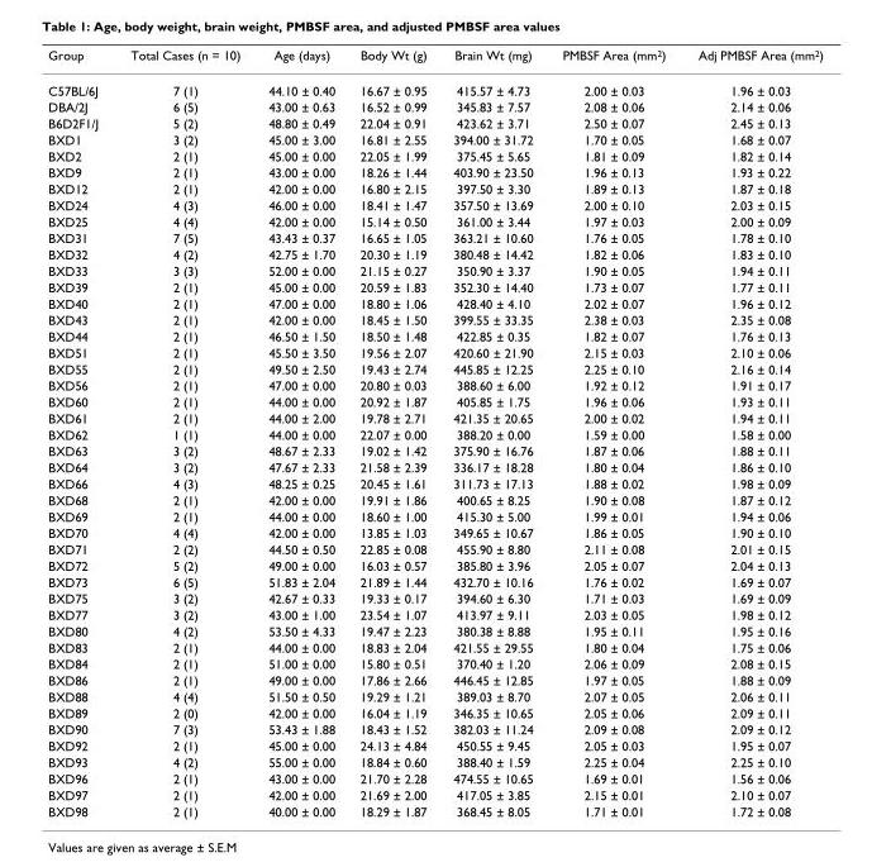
<table><thead><tr><td>Group</td><td>Total Cases (n = 10)</td><td>Age (days)</td><td>Body Wt (g)</td><td>Brain Wt (mg)</td><td>PMBSF Area (mm<sup>2</sup>)</td><td>Adj PMBSF Area (mm<sup>2</sup>)</td></tr></thead><tbody><tr><td>C57BL/6J</td><td>7 (1)</td><td>44.10 ± 0.40</td><td>16.67 ± 0.95</td><td>415.57 ± 4.73</td><td>2.00 ± 0.03</td><td>1.96 ± 0.03</td></tr><tr><td>DBA/2J</td><td>6 (5)</td><td>43.00 ± 0.63</td><td>16.52 ± 0.99</td><td>345.83 ± 7.57</td><td>2.08 ± 0.06</td><td>2.14 ± 0.06</td></tr><tr><td>B6D2F1/J</td><td>5 (2)</td><td>48.80 ± 0.49</td><td>22.04 ± 0.91</td><td>423.62 ± 3.71</td><td>2.50 ± 0.07</td><td>2.45 ± 0.13</td></tr><tr><td>BXD1</td><td>3 (2)</td><td>45.00 ± 3.00</td><td>16.81 ± 2.55</td><td>394.00 ± 31.72</td><td>1.70 ± 0.05</td><td>1.68 ± 0.07</td></tr><tr><td>BXD2</td><td>2 (1)</td><td>45.00 ± 0.00</td><td>22.05 ± 1.99</td><td>375.45 ± 5.65</td><td>1.81 ± 0.09</td><td>1.82 ± 0.14</td></tr><tr><td>BXD9</td><td>2 (1)</td><td>43.00 ± 0.00</td><td>18.26 ± 1.44</td><td>403.90 ± 23.50</td><td>1.96 ± 0.13</td><td>1.93 ± 0.22</td></tr><tr><td>BXD12</td><td>2 (1)</td><td>42.00 ± 0.00</td><td>16.80 ± 2.15</td><td>397.50 ± 3.30</td><td>1.89 ± 0.13</td><td>1.87 ± 0.18</td></tr><tr><td>BXD24</td><td>4 (3)</td><td>46.00 ± 0.00</td><td>18.41 ± 1.47</td><td>357.50 ± 13.69</td><td>2.00 ± 0.10</td><td>2.03 ± 0.15</td></tr><tr><td>BXD25</td><td>4 (4)</td><td>42.00 ± 0.00</td><td>15.14 ± 0.50</td><td>361.00 ± 3.44</td><td>1.97 ± 0.03</td><td>2.00 ± 0.09</td></tr><tr><td>BXD31</td><td>7 (5)</td><td>43.43 ± 0.37</td><td>16.65 ± 1.05</td><td>363.21 ± 10.60</td><td>1.76 ± 0.05</td><td>1.78 ± 0.10</td></tr><tr><td>BXD32</td><td>4 (2)</td><td>42.75 ± 1.70</td><td>20.30 ± 1.19</td><td>380.48 ± 14.42</td><td>1.82 ± 0.06</td><td>1.83 ± 0.10</td></tr><tr><td>BXD33</td><td>3 (3)</td><td>52.00 ± 0.00</td><td>21.15 ± 0.27</td><td>350.90 ± 3.37</td><td>1.90 ± 0.05</td><td>1.94 ± 0.11</td></tr><tr><td>BXD39</td><td>2 (1)</td><td>45.00 ± 0.00</td><td>20.59 ± 1.83</td><td>352.30 ± 14.40</td><td>1.73 ± 0.07</td><td>1.77 ± 0.11</td></tr><tr><td>BXD40</td><td>2 (1)</td><td>47.00 ± 0.00</td><td>18.80 ± 1.06</td><td>428.40 ± 4.10</td><td>2.02 ± 0.07</td><td>1.96 ± 0.12</td></tr><tr><td>BXD43</td><td>2 (1)</td><td>42.00 ± 0.00</td><td>18.45 ± 1.50</td><td>399.55 ± 33.35</td><td>2.38 ± 0.03</td><td>2.35 ± 0.08</td></tr><tr><td>BXD44</td><td>2 (1)</td><td>46.50 ± 1.50</td><td>18.50 ± 1.48</td><td>422.85 ± 0.35</td><td>1.82 ± 0.07</td><td>1.76 ± 0.13</td></tr><tr><td>BXD51</td><td>2 (1)</td><td>45.50 ± 3.50</td><td>19.56 ± 2.07</td><td>420.60 ± 21.90</td><td>2.15 ± 0.03</td><td>2.10 ± 0.06</td></tr><tr><td>BXD55</td><td>2 (1)</td><td>49.50 ± 2.50</td><td>19.43 ± 2.74</td><td>445.85 ± 12.25</td><td>2.25 ± 0.10</td><td>2.16 ± 0.14</td></tr><tr><td>BXD56</td><td>2 (1)</td><td>47.00 ± 0.00</td><td>20.80 ± 0.03</td><td>388.60 ± 6.00</td><td>1.92 ± 0.12</td><td>1.91 ± 0.17</td></tr><tr><td>BXD60</td><td>2 (1)</td><td>44.00 ± 0.00</td><td>20.92 ± 1.87</td><td>405.85 ± 1.75</td><td>1.96 ± 0.06</td><td>1.93 ± 0.11</td></tr><tr><td>BXD61</td><td>2 (1)</td><td>44.00 ± 2.00</td><td>19.78 ± 2.71</td><td>421.35 ± 20.65</td><td>2.00 ± 0.02</td><td>1.94 ± 0.11</td></tr><tr><td>BXD62</td><td>1 (1)</td><td>44.00 ± 0.00</td><td>22.07 ± 0.00</td><td>388.20 ± 0.00</td><td>1.59 ± 0.00</td><td>1.58 ± 0.00</td></tr><tr><td>BXD63</td><td>3 (2)</td><td>48.67 ± 2.33</td><td>19.02 ± 1.42</td><td>375.90 ± 16.76</td><td>1.87 ± 0.06</td><td>1.88 ± 0.11</td></tr><tr><td>BXD64</td><td>3 (2)</td><td>47.67 ± 2.33</td><td>21.58 ± 2.39</td><td>336.17 ± 18.28</td><td>1.80 ± 0.04</td><td>1.86 ± 0.10</td></tr><tr><td>BXD66</td><td>4 (3)</td><td>48.25 ± 0.25</td><td>20.45 ± 1.61</td><td>311.73 ± 17.13</td><td>1.88 ± 0.02</td><td>1.98 ± 0.09</td></tr><tr><td>BXD68</td><td>2 (1)</td><td>42.00 ± 0.00</td><td>19.91 ± 1.86</td><td>400.65 ± 8.25</td><td>1.90 ± 0.08</td><td>1.87 ± 0.12</td></tr><tr><td>BXD69</td><td>2 (1)</td><td>44.00 ± 0.00</td><td>18.60 ± 1.00</td><td>415.30 ± 5.00</td><td>1.99 ± 0.01</td><td>1.94 ± 0.06</td></tr><tr><td>BXD70</td><td>4 (4)</td><td>42.00 ± 0.00</td><td>13.85 ± 1.03</td><td>349.65 ± 10.67</td><td>1.86 ± 0.05</td><td>1.90 ± 0.10</td></tr><tr><td>BXD71</td><td>2 (2)</td><td>44.50 ± 0.50</td><td>22.85 ± 0.08</td><td>455.90 ± 8.80</td><td>2.11 ± 0.08</td><td>2.01 ± 0.15</td></tr><tr><td>BXD72</td><td>5 (2)</td><td>49.00 ± 0.00</td><td>16.03 ± 0.57</td><td>385.80 ± 3.96</td><td>2.05 ± 0.07</td><td>2.04 ± 0.13</td></tr><tr><td>BXD73</td><td>6 (5)</td><td>51.83 ± 2.04</td><td>21.89 ± 1.44</td><td>432.70 ± 10.16</td><td>1.76 ± 0.02</td><td>1.69 ± 0.07</td></tr><tr><td>BXD75</td><td>3 (2)</td><td>42.67 ± 0.33</td><td>19.33 ± 0.17</td><td>394.60 ± 6.30</td><td>1.71 ± 0.03</td><td>1.69 ± 0.09</td></tr><tr><td>BXD77</td><td>3 (2)</td><td>43.00 ± 1.00</td><td>23.54 ± 1.07</td><td>413.97 ± 9.11</td><td>2.03 ± 0.05</td><td>1.98 ± 0.12</td></tr><tr><td>BXD80</td><td>4 (2)</td><td>53.50 ± 4.33</td><td>19.47 ± 2.23</td><td>380.38 ± 8.88</td><td>1.95 ± 0.11</td><td>1.95 ± 0.16</td></tr><tr><td>BXD83</td><td>2 (1)</td><td>44.00 ± 0.00</td><td>18.83 ± 2.04</td><td>421.55 ± 29.55</td><td>1.80 ± 0.04</td><td>1.75 ± 0.06</td></tr><tr><td>BXD84</td><td>2 (1)</td><td>51.00 ± 0.00</td><td>15.80 ± 0.51</td><td>370.40 ± 1.20</td><td>2.06 ± 0.09</td><td>2.08 ± 0.15</td></tr><tr><td>BXD86</td><td>2 (1)</td><td>49.00 ± 0.00</td><td>17.86 ± 2.66</td><td>446.45 ± 12.85</td><td>1.97 ± 0.05</td><td>1.88 ± 0.09</td></tr><tr><td>BXD88</td><td>4 (4)</td><td>51.50 ± 0.50</td><td>19.29 ± 1.21</td><td>389.03 ± 8.70</td><td>2.07 ± 0.05</td><td>2.06 ± 0.11</td></tr><tr><td>BXD89</td><td>2 (0)</td><td>42.00 ± 0.00</td><td>16.04 ± 1.19</td><td>346.35 ± 10.65</td><td>2.05 ± 0.06</td><td>2.09 ± 0.11</td></tr><tr><td>BXD90</td><td>7 (3)</td><td>53.43 ± 1.88</td><td>18.43 ± 1.52</td><td>382.03 ± 11.24</td><td>2.09 ± 0.08</td><td>2.09 ± 0.12</td></tr><tr><td>BXD92</td><td>2 (1)</td><td>45.00 ± 0.00</td><td>24.13 ± 4.84</td><td>450.55 ± 9.45</td><td>2.05 ± 0.03</td><td>1.95 ± 0.07</td></tr><tr><td>BXD93</td><td>4 (2)</td><td>55.00 ± 0.00</td><td>18.84 ± 0.60</td><td>388.40 ± 1.59</td><td>2.25 ± 0.04</td><td>2.25 ± 0.10</td></tr><tr><td>BXD96</td><td>2 (1)</td><td>43.00 ± 0.00</td><td>21.70 ± 2.28</td><td>474.55 ± 10.65</td><td>1.69 ± 0.01</td><td>1.56 ± 0.06</td></tr><tr><td>BXD97</td><td>2 (1)</td><td>42.00 ± 0.00</td><td>21.69 ± 2.00</td><td>417.05 ± 3.85</td><td>2.15 ± 0.01</td><td>2.10 ± 0.07</td></tr><tr><td>BXD98</td><td>2 (1)</td><td>40.00 ± 0.00</td><td>18.29 ± 1.87</td><td>368.45 ± 8.05</td><td>1.71 ± 0.01</td><td>1.72 ± 0.08</td></tr></tbody></table>